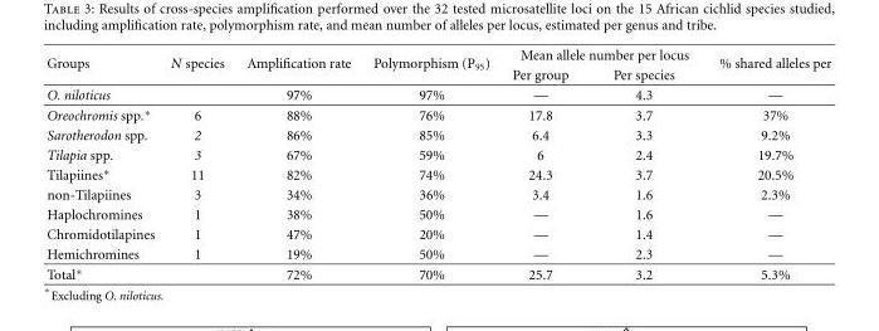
<table><thead><tr><td rowspan="2">Groups</td><td rowspan="2">N species</td><td rowspan="2">Amplification rate</td><td rowspan="2">Polymorphism (P<sub>95</sub>)</td><td colspan="2">Mean allele number per locus</td><td rowspan="2">% shared alleles per</td></tr><tr><td>Per group</td><td>Per species</td></tr></thead><tbody><tr><td>O. niloticus</td><td></td><td>97%</td><td>97%</td><td>—</td><td>4.3</td><td>—</td></tr><tr><td>Oreochromis spp.∗</td><td>6</td><td>88%</td><td>76%</td><td>17.8</td><td>3.7</td><td>37%</td></tr><tr><td>Sarotherodon spp.</td><td>2</td><td>86%</td><td>85%</td><td>6.4</td><td>3.3</td><td>9.2%</td></tr><tr><td>Tilapia spp.</td><td>3</td><td>67%</td><td>59%</td><td>6</td><td>2.4</td><td>19.7%</td></tr><tr><td>Tilapiines∗</td><td>11</td><td>82%</td><td>74%</td><td>24.3</td><td>3.7</td><td>20.5%</td></tr><tr><td>non-Tilapiines</td><td>3</td><td>34%</td><td>36%</td><td>3.4</td><td>1.6</td><td>2.3%</td></tr><tr><td>Haplochromines</td><td>1</td><td>38%</td><td>50%</td><td>—</td><td>1.6</td><td>—</td></tr><tr><td>Chromidotilapines</td><td>1</td><td>47%</td><td>20%</td><td>—</td><td>1.4</td><td>—</td></tr><tr><td>Hemichromines</td><td>1</td><td>19%</td><td>50%</td><td>—</td><td>2.3</td><td>—</td></tr><tr><td>Total∗</td><td></td><td>72%</td><td>70%</td><td>25.7</td><td>3.2</td><td>5.3%</td></tr></tbody></table>